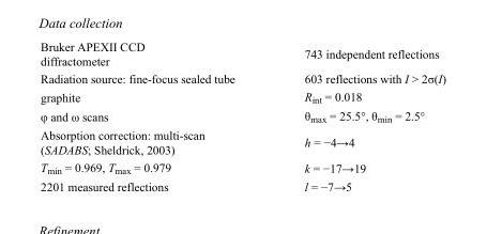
<table><tbody><tr><td>Bruker APEXII CCD diffractometer</td><td>743 independent reflections</td></tr><tr><td>Radiation source: fine-focus sealed tube</td><td>603 reflections with I &gt; 2σ(I)</td></tr><tr><td>graphite</td><td>R<sub>int</sub> = 0.018</td></tr><tr><td>φ and ω scans</td><td>θ<sub>max</sub> = 25.5°, θ<sub>min</sub> = 2.5°</td></tr><tr><td>Absorption correction: multi-scan (SADABS; Sheldrick, 2003)</td><td>h = −4→4</td></tr><tr><td>T<sub>min</sub> = 0.969, T<sub>max</sub> = 0.979</td><td>k = −17→19</td></tr><tr><td>2201 measured reflections</td><td>l = −7→5</td></tr></tbody></table>